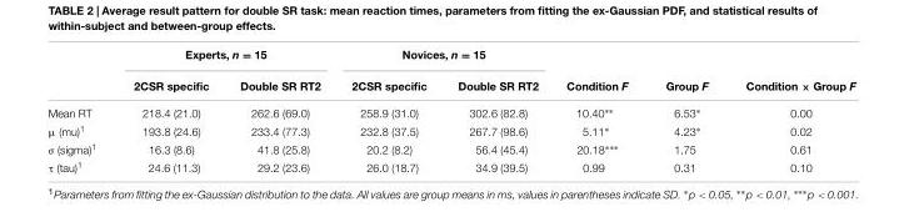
<table><thead><tr><td rowspan="2"></td><td colspan="2">Experts, n = 15</td><td colspan="2">Novices, n = 15</td><td rowspan="2">Condition F</td><td rowspan="2">Group F</td><td rowspan="2">Condition × Group F</td></tr><tr><td>2CSR specific</td><td>Double SR RT2</td><td>2CSR specific</td><td>Double SR RT2</td></tr></thead><tbody><tr><td>Mean RT</td><td>218.4 (21.0)</td><td>262.6 (69.0)</td><td>258.9 (31.0)</td><td>302.6 (82.8)</td><td>10.40∗∗</td><td>6.53∗</td><td>0.00</td></tr><tr><td>µ (mu)<sup>1</sup></td><td>193.8 (24.6)</td><td>233.4 (77.3)</td><td>232.8 (37.5)</td><td>267.7 (98.6)</td><td>5.11∗</td><td>4.23∗</td><td>0.02</td></tr><tr><td>σ (sigma)<sup>1</sup></td><td>16.3 (8.6)</td><td>41.8 (25.8)</td><td>20.2 (8.2)</td><td>56.4 (45.4)</td><td>20.18∗∗∗</td><td>1.75</td><td>0.61</td></tr><tr><td>τ (tau)<sup>1</sup></td><td>24.6 (11.3)</td><td>29.2 (23.6)</td><td>26.0 (18.7)</td><td>34.9 (39.5)</td><td>0.99</td><td>0.31</td><td>0.10</td></tr></tbody></table>